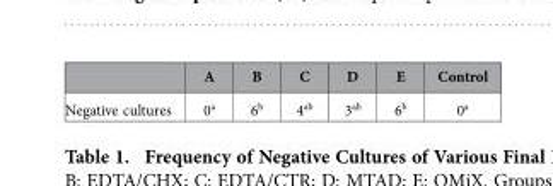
<table><thead><tr><td></td><td>A</td><td>B</td><td>C</td><td>D</td><td>E</td><td>Control</td></tr></thead><tbody><tr><td>Negative cultures</td><td>0<sup>a</sup></td><td>6<sup>b</sup></td><td>4<sup>ab</sup></td><td>3<sup>ab</sup></td><td>6<sup>b</sup></td><td>0<sup>a</sup></td></tr></tbody></table>